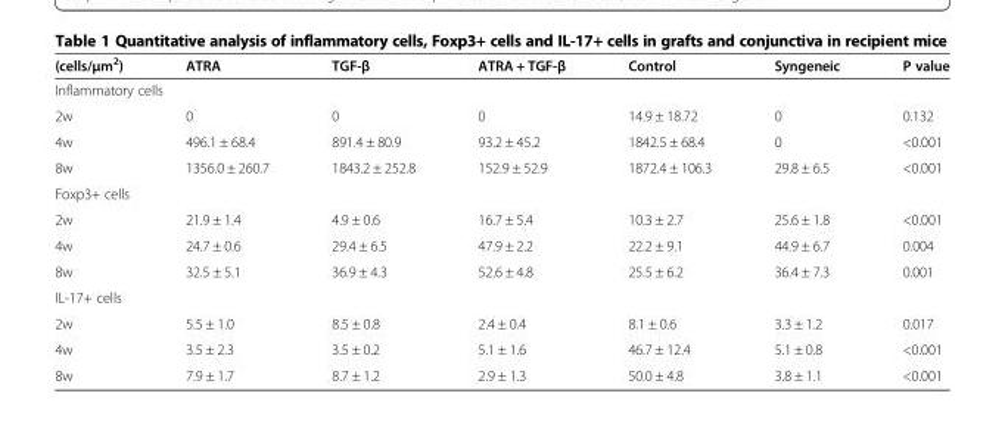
<table><thead><tr><td>(cells/μm<sup>2</sup>)</td><td>ATRA</td><td>TGF-β</td><td>ATRA + TGF-β</td><td>Control</td><td>Syngeneic</td><td>P value</td></tr></thead><tbody><tr><td colspan="7">Inflammatory cells</td></tr><tr><td>2w</td><td>0</td><td>0</td><td>0</td><td>14.9 ± 18.72</td><td>0</td><td>0.132</td></tr><tr><td>4w</td><td>496.1 ± 68.4</td><td>891.4 ± 80.9</td><td>93.2 ± 45.2</td><td>1842.5 ± 68.4</td><td>0</td><td>&lt;0.001</td></tr><tr><td>8w</td><td>1356.0 ± 260.7</td><td>1843.2 ± 252.8</td><td>152.9 ± 52.9</td><td>1872.4 ± 106.3</td><td>29.8 ± 6.5</td><td>&lt;0.001</td></tr><tr><td colspan="7">Foxp3+ cells</td></tr><tr><td>2w</td><td>21.9 ± 1.4</td><td>4.9 ± 0.6</td><td>16.7 ± 5.4</td><td>10.3 ± 2.7</td><td>25.6 ± 1.8</td><td>&lt;0.001</td></tr><tr><td>4w</td><td>24.7 ± 0.6</td><td>29.4 ± 6.5</td><td>47.9 ± 2.2</td><td>22.2 ± 9.1</td><td>44.9 ± 6.7</td><td>0.004</td></tr><tr><td>8w</td><td>32.5 ± 5.1</td><td>36.9 ± 4.3</td><td>52.6 ± 4.8</td><td>25.5 ± 6.2</td><td>36.4 ± 7.3</td><td>0.001</td></tr><tr><td colspan="7">IL-17+ cells</td></tr><tr><td>2w</td><td>5.5 ± 1.0</td><td>8.5 ± 0.8</td><td>2.4 ± 0.4</td><td>8.1 ± 0.6</td><td>3.3 ± 1.2</td><td>0.017</td></tr><tr><td>4w</td><td>3.5 ± 2.3</td><td>3.5 ± 0.2</td><td>5.1 ± 1.6</td><td>46.7 ± 12.4</td><td>5.1 ± 0.8</td><td>&lt;0.001</td></tr><tr><td>8w</td><td>7.9 ± 1.7</td><td>8.7 ± 1.2</td><td>2.9 ± 1.3</td><td>50.0 ± 4.8</td><td>3.8 ± 1.1</td><td>&lt;0.001</td></tr></tbody></table>